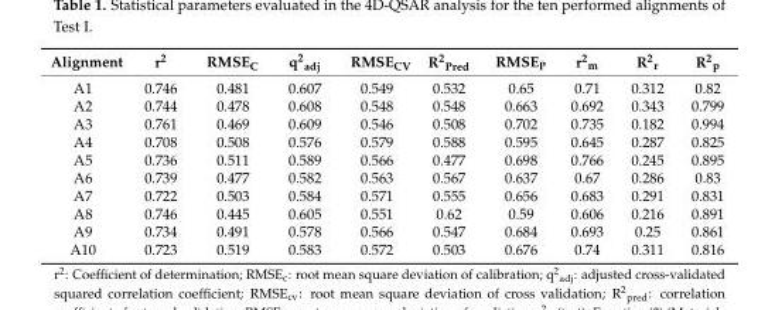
<table><thead><tr><td>Alignment</td><td>r<sup>2</sup></td><td>RMSE<sub>C</sub></td><td>q<sup>2</sup><sub>adj</sub></td><td>RMSE<sub>CV</sub></td><td>R<sup>2</sup><sub>Pred</sub></td><td>RMSE<sub>P</sub></td><td>r<sup>2</sup><sub>m</sub></td><td>R<sup>2</sup><sub>r</sub></td><td>R<sup>2</sup><sub>p</sub></td></tr></thead><tbody><tr><td>A1</td><td>0.746</td><td>0.481</td><td>0.607</td><td>0.549</td><td>0.532</td><td>0.65</td><td>0.71</td><td>0.312</td><td>0.82</td></tr><tr><td>A2</td><td>0.744</td><td>0.478</td><td>0.608</td><td>0.548</td><td>0.548</td><td>0.663</td><td>0.692</td><td>0.343</td><td>0.799</td></tr><tr><td>A3</td><td>0.761</td><td>0.469</td><td>0.609</td><td>0.546</td><td>0.508</td><td>0.702</td><td>0.735</td><td>0.182</td><td>0.994</td></tr><tr><td>A4</td><td>0.708</td><td>0.508</td><td>0.576</td><td>0.579</td><td>0.588</td><td>0.595</td><td>0.645</td><td>0.287</td><td>0.825</td></tr><tr><td>A5</td><td>0.736</td><td>0.511</td><td>0.589</td><td>0.566</td><td>0.477</td><td>0.698</td><td>0.766</td><td>0.245</td><td>0.895</td></tr><tr><td>A6</td><td>0.739</td><td>0.477</td><td>0.582</td><td>0.563</td><td>0.567</td><td>0.637</td><td>0.67</td><td>0.286</td><td>0.83</td></tr><tr><td>A7</td><td>0.722</td><td>0.503</td><td>0.584</td><td>0.571</td><td>0.555</td><td>0.656</td><td>0.683</td><td>0.291</td><td>0.831</td></tr><tr><td>A8</td><td>0.746</td><td>0.445</td><td>0.605</td><td>0.551</td><td>0.62</td><td>0.59</td><td>0.606</td><td>0.216</td><td>0.891</td></tr><tr><td>A9</td><td>0.734</td><td>0.491</td><td>0.578</td><td>0.566</td><td>0.547</td><td>0.684</td><td>0.693</td><td>0.25</td><td>0.861</td></tr><tr><td>A10</td><td>0.723</td><td>0.519</td><td>0.583</td><td>0.572</td><td>0.503</td><td>0.676</td><td>0.74</td><td>0.311</td><td>0.816</td></tr></tbody></table>